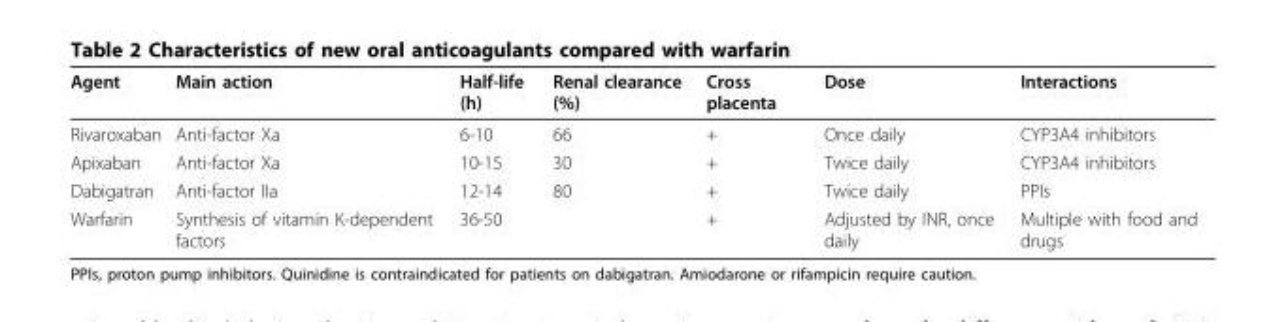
<table><thead><tr><td>Agent</td><td>Main action</td><td>Half-life (h)</td><td>Renal clearance (%)</td><td>Cross placenta</td><td>Dose</td><td>Interactions</td></tr></thead><tbody><tr><td>Rivaroxaban</td><td>Anti-factor Xa</td><td>6-10</td><td>66</td><td>+</td><td>Once daily</td><td>CYP3A4 inhibitors</td></tr><tr><td>Apixaban</td><td>Anti-factor Xa</td><td>10-15</td><td>30</td><td>+</td><td>Twice daily</td><td>CYP3A4 inhibitors</td></tr><tr><td>Dabigatran</td><td>Anti-factor IIa</td><td>12-14</td><td>80</td><td>+</td><td>Twice daily</td><td>PPIs</td></tr><tr><td>Warfarin</td><td>Synthesis of vitamin K-dependent factors</td><td>36-50</td><td></td><td>+</td><td>Adjusted by INR, once daily</td><td>Multiple with food and drugs</td></tr></tbody></table>